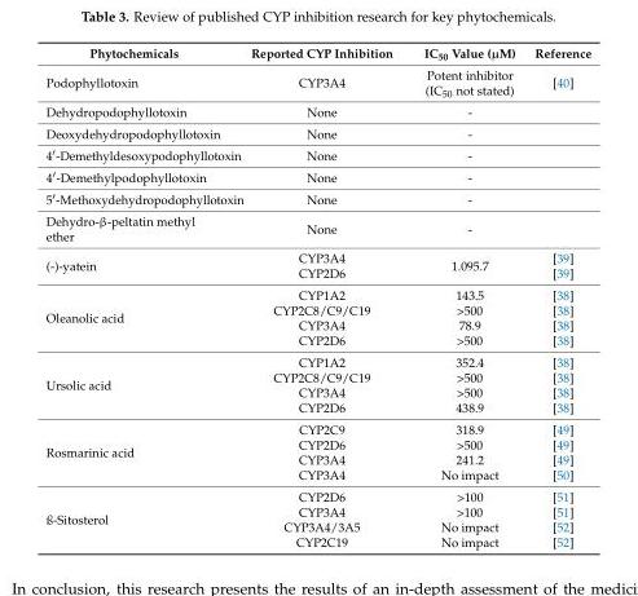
<table><thead><tr><td>Phytochemicals</td><td>Reported CYP Inhibition</td><td>IC<sub>50</sub> Value (µM)</td><td>Reference</td></tr></thead><tbody><tr><td>Podophyllotoxin</td><td>CYP3A4</td><td>Potent inhibitor (IC<sub>50</sub> not stated)</td><td>[40]</td></tr><tr><td>Dehydropodophyllotoxin</td><td>None</td><td>-</td><td></td></tr><tr><td>Deoxydehydropodophyllotoxin</td><td>None</td><td>-</td><td></td></tr><tr><td>4′-Demethyldesoxypodophyllotoxin</td><td>None</td><td>-</td><td></td></tr><tr><td>4′-Demethylpodophyllotoxin</td><td>None</td><td>-</td><td></td></tr><tr><td>5′-Methoxydehydropodophyllotoxin</td><td>None</td><td>-</td><td></td></tr><tr><td>Dehydro-β-peltatin methyl ether</td><td>None</td><td>-</td><td></td></tr><tr><td>(-)-yatein</td><td>CYP3A4 CYP2D6</td><td>1.095.7</td><td>[39] [39]</td></tr><tr><td>Oleanolic acid</td><td>CYP1A2 CYP2C8/C9/C19 CYP3A4 CYP2D6</td><td>143.5 &gt;500 78.9 &gt;500</td><td>[38] [38] [38] [38]</td></tr><tr><td>Ursolic acid</td><td>CYP1A2 CYP2C8/C9/C19 CYP3A4 CYP2D6</td><td>352.4 &gt;500 &gt;500 438.9</td><td>[38] [38] [38] [38]</td></tr><tr><td>Rosmarinic acid</td><td>CYP2C9 CYP2D6 CYP3A4 CYP3A4</td><td>318.9 &gt;500 241.2 No impact</td><td>[49] [49] [49] [50]</td></tr><tr><td>ß-Sitosterol</td><td>CYP2D6 CYP3A4 CYP3A4/3A5 CYP2C19</td><td>&gt;100 &gt;100 No impact No impact</td><td>[51] [51] [52] [52]</td></tr></tbody></table>